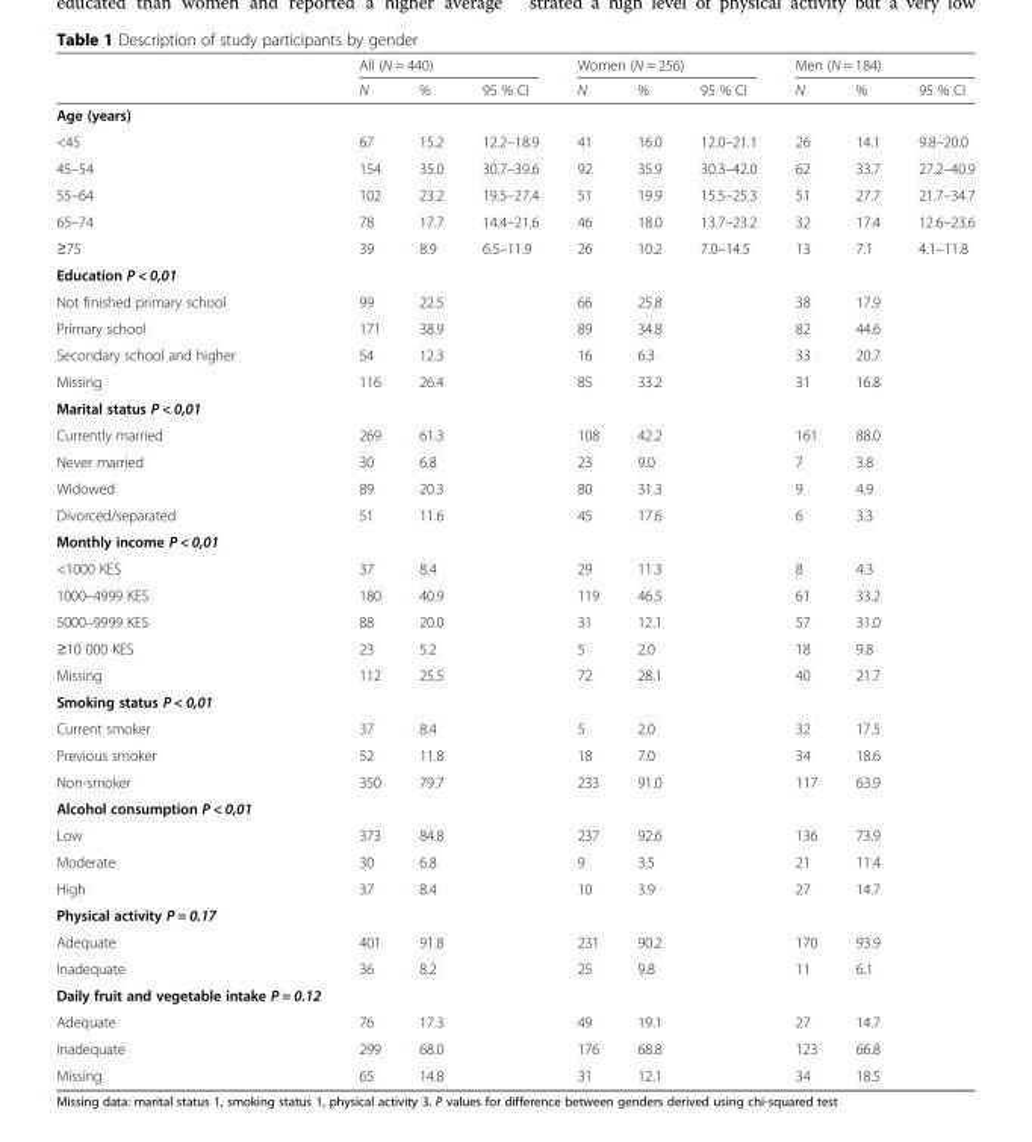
<table><thead><tr><td rowspan="2"></td><td colspan="3">All (N = 440)</td><td colspan="3">Women (N = 256)</td><td colspan="3">Men (N = 184)</td></tr><tr><td>N</td><td>%</td><td>95 % CI</td><td>N</td><td>%</td><td>95 % CI</td><td>N</td><td>%</td><td>95 % CI</td></tr></thead><tbody><tr><td colspan="10">Age (years)</td></tr><tr><td>&lt;45</td><td>67</td><td>15.2</td><td>12.2–18.9</td><td>41</td><td>16.0</td><td>12.0–21.1</td><td>26</td><td>14.1</td><td>9.8–20.0</td></tr><tr><td>45–54</td><td>154</td><td>35.0</td><td>30.7–39.6</td><td>92</td><td>35.9</td><td>30.3–42.0</td><td>62</td><td>33.7</td><td>27.2–40.9</td></tr><tr><td>55–64</td><td>102</td><td>23.2</td><td>19.5–27.4</td><td>51</td><td>19.9</td><td>15.5–25.3</td><td>51</td><td>27.7</td><td>21.7–34.7</td></tr><tr><td>65–74</td><td>78</td><td>17.7</td><td>14.4–21.6</td><td>46</td><td>18.0</td><td>13.7–23.2</td><td>32</td><td>17.4</td><td>12.6–23.6</td></tr><tr><td>≥75</td><td>39</td><td>8.9</td><td>6.5–11.9</td><td>26</td><td>10.2</td><td>7.0–14.5</td><td>13</td><td>7.1</td><td>4.1–11.8</td></tr><tr><td colspan="10">Education P &lt; 0,01</td></tr><tr><td>Not finished primary school</td><td>99</td><td>22.5</td><td></td><td>66</td><td>25.8</td><td></td><td>38</td><td>17.9</td><td></td></tr><tr><td>Primary school</td><td>171</td><td>38.9</td><td></td><td>89</td><td>34.8</td><td></td><td>82</td><td>44.6</td><td></td></tr><tr><td>Secondary school and higher</td><td>54</td><td>12.3</td><td></td><td>16</td><td>6.3</td><td></td><td>33</td><td>20.7</td><td></td></tr><tr><td>Missing</td><td>116</td><td>26.4</td><td></td><td>85</td><td>33.2</td><td></td><td>31</td><td>16.8</td><td></td></tr><tr><td colspan="10">Marital status P &lt; 0,01</td></tr><tr><td>Currently married</td><td>269</td><td>61.3</td><td></td><td>108</td><td>42.2</td><td></td><td>161</td><td>88.0</td><td></td></tr><tr><td>Never married</td><td>30</td><td>6.8</td><td></td><td>23</td><td>9.0</td><td></td><td>7</td><td>3.8</td><td></td></tr><tr><td>Widowed</td><td>89</td><td>20.3</td><td></td><td>80</td><td>31.3</td><td></td><td>9</td><td>4.9</td><td></td></tr><tr><td>Divorced/separated</td><td>51</td><td>11.6</td><td></td><td>45</td><td>17.6</td><td></td><td>6</td><td>3.3</td><td></td></tr><tr><td colspan="10">Monthly income P &lt; 0,01</td></tr><tr><td>&lt;1000 KES</td><td>37</td><td>8.4</td><td></td><td>29</td><td>11.3</td><td></td><td>8</td><td>4.3</td><td></td></tr><tr><td>1000–4999 KES</td><td>180</td><td>40.9</td><td></td><td>119</td><td>46.5</td><td></td><td>61</td><td>33.2</td><td></td></tr><tr><td>5000–9999 KES</td><td>88</td><td>20.0</td><td></td><td>31</td><td>12.1</td><td></td><td>57</td><td>31.0</td><td></td></tr><tr><td>≥10 000 KES</td><td>23</td><td>5.2</td><td></td><td>5</td><td>2.0</td><td></td><td>18</td><td>9.8</td><td></td></tr><tr><td>Missing</td><td>112</td><td>25.5</td><td></td><td>72</td><td>28.1</td><td></td><td>40</td><td>21.7</td><td></td></tr><tr><td colspan="10">Smoking status P &lt; 0,01</td></tr><tr><td>Current smoker</td><td>37</td><td>8.4</td><td></td><td>5</td><td>2.0</td><td></td><td>32</td><td>17.5</td><td></td></tr><tr><td>Previous smoker</td><td>52</td><td>11.8</td><td></td><td>18</td><td>7.0</td><td></td><td>34</td><td>18.6</td><td></td></tr><tr><td>Non-smoker</td><td>350</td><td>79.7</td><td></td><td>233</td><td>91.0</td><td></td><td>117</td><td>63.9</td><td></td></tr><tr><td colspan="10">Alcohol consumption P &lt; 0,01</td></tr><tr><td>Low</td><td>373</td><td>84.8</td><td></td><td>237</td><td>92.6</td><td></td><td>136</td><td>73.9</td><td></td></tr><tr><td>Moderate</td><td>30</td><td>6.8</td><td></td><td>9</td><td>3.5</td><td></td><td>21</td><td>11.4</td><td></td></tr><tr><td>High</td><td>37</td><td>8.4</td><td></td><td>10</td><td>3.9</td><td></td><td>27</td><td>14.7</td><td></td></tr><tr><td colspan="10">Physical activity P = 0.17</td></tr><tr><td>Adequate</td><td>401</td><td>91.8</td><td></td><td>231</td><td>90.2</td><td></td><td>170</td><td>93.9</td><td></td></tr><tr><td>Inadequate</td><td>36</td><td>8.2</td><td></td><td>25</td><td>9.8</td><td></td><td>11</td><td>6.1</td><td></td></tr><tr><td colspan="10">Daily fruit and vegetable intake P = 0.12</td></tr><tr><td>Adequate</td><td>76</td><td>17.3</td><td></td><td>49</td><td>19.1</td><td></td><td>27</td><td>14.7</td><td></td></tr><tr><td>Inadequate</td><td>299</td><td>68.0</td><td></td><td>176</td><td>68.8</td><td></td><td>123</td><td>66.8</td><td></td></tr><tr><td>Missing</td><td>65</td><td>14.8</td><td></td><td>31</td><td>12.1</td><td></td><td>34</td><td>18.5</td><td></td></tr></tbody></table>